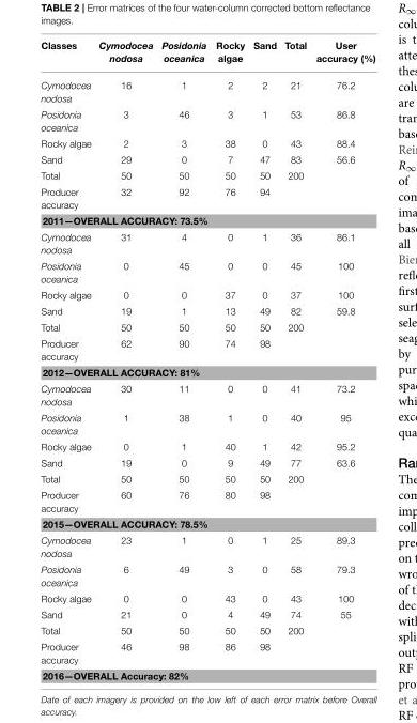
<table><thead><tr><td>Classes</td><td>Cymodocea nodosa</td><td>Posidonia oceanica</td><td>Rocky algae</td><td>Sand</td><td>Total</td><td>User accuracy (%)</td></tr></thead><tbody><tr><td>Cymodocea nodosa</td><td>16</td><td>1</td><td>2</td><td>2</td><td>21</td><td>76.2</td></tr><tr><td>Posidonia oceanica</td><td>3</td><td>46</td><td>3</td><td>1</td><td>53</td><td>86.8</td></tr><tr><td>Rocky algae</td><td>2</td><td>3</td><td>38</td><td>0</td><td>43</td><td>88.4</td></tr><tr><td>Sand</td><td>29</td><td>0</td><td>7</td><td>47</td><td>83</td><td>56.6</td></tr><tr><td>Total</td><td>50</td><td>50</td><td>50</td><td>50</td><td>200</td><td></td></tr><tr><td>Producer accuracy</td><td>32</td><td>92</td><td>76</td><td>94</td><td></td><td></td></tr><tr><td colspan="7">2011—OVERALL ACCURACY: 73.5%</td></tr><tr><td>Cymodocea nodosa</td><td>31</td><td>4</td><td>0</td><td>1</td><td>36</td><td>86.1</td></tr><tr><td>Posidonia oceanica</td><td>0</td><td>45</td><td>0</td><td>0</td><td>45</td><td>100</td></tr><tr><td>Rocky algae</td><td>0</td><td>0</td><td>37</td><td>0</td><td>37</td><td>100</td></tr><tr><td>Sand</td><td>19</td><td>1</td><td>13</td><td>49</td><td>82</td><td>59.8</td></tr><tr><td>Total</td><td>50</td><td>50</td><td>50</td><td>50</td><td>200</td><td></td></tr><tr><td>Producer accuracy</td><td>62</td><td>90</td><td>74</td><td>98</td><td></td><td></td></tr><tr><td colspan="7">2012—OVERALL ACCURACY: 81%</td></tr><tr><td>Cymodocea nodosa</td><td>30</td><td>11</td><td>0</td><td>0</td><td>41</td><td>73.2</td></tr><tr><td>Posidonia oceanica</td><td>1</td><td>38</td><td>1</td><td>0</td><td>40</td><td>95</td></tr><tr><td>Rocky algae</td><td>0</td><td>1</td><td>40</td><td>1</td><td>42</td><td>95.2</td></tr><tr><td>Sand</td><td>19</td><td>0</td><td>9</td><td>49</td><td>77</td><td>63.6</td></tr><tr><td>Total</td><td>50</td><td>50</td><td>50</td><td>50</td><td>200</td><td></td></tr><tr><td>Producer accuracy</td><td>60</td><td>76</td><td>80</td><td>98</td><td></td><td></td></tr><tr><td colspan="7">2015—OVERALL ACCURACY: 78.5%</td></tr><tr><td>Cymodocea nodosa</td><td>23</td><td>1</td><td>0</td><td>1</td><td>25</td><td>89.3</td></tr><tr><td>Posidonia oceanica</td><td>6</td><td>49</td><td>3</td><td>0</td><td>58</td><td>79.3</td></tr><tr><td>Rocky algae</td><td>0</td><td>0</td><td>43</td><td>0</td><td>43</td><td>100</td></tr><tr><td>Sand</td><td>21</td><td>0</td><td>4</td><td>49</td><td>74</td><td>55</td></tr><tr><td>Total</td><td>50</td><td>50</td><td>50</td><td>50</td><td>200</td><td></td></tr><tr><td>Producer accuracy</td><td>46</td><td>98</td><td>86</td><td>98</td><td></td><td></td></tr><tr><td colspan="7">2016—OVERALL Accuracy: 82%</td></tr></tbody></table>